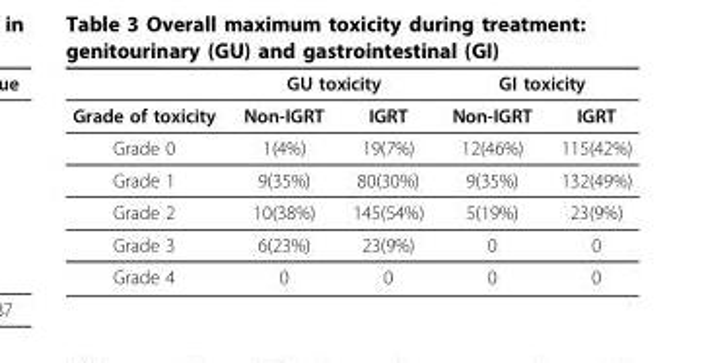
<table><thead><tr><td rowspan="2">Grade of toxicity</td><td colspan="2">GU toxicity</td><td colspan="2">GI toxicity</td></tr><tr><td>Non-IGRT</td><td>IGRT</td><td>Non-IGRT</td><td>IGRT</td></tr></thead><tbody><tr><td>Grade 0</td><td>1(4%)</td><td>19(7%)</td><td>12(46%)</td><td>115(42%)</td></tr><tr><td>Grade 1</td><td>9(35%)</td><td>80(30%)</td><td>9(35%)</td><td>132(49%)</td></tr><tr><td>Grade 2</td><td>10(38%)</td><td>145(54%)</td><td>5(19%)</td><td>23(9%)</td></tr><tr><td>Grade 3</td><td>6(23%)</td><td>23(9%)</td><td>0</td><td>0</td></tr><tr><td>Grade 4</td><td>0</td><td>0</td><td>0</td><td>0</td></tr></tbody></table>